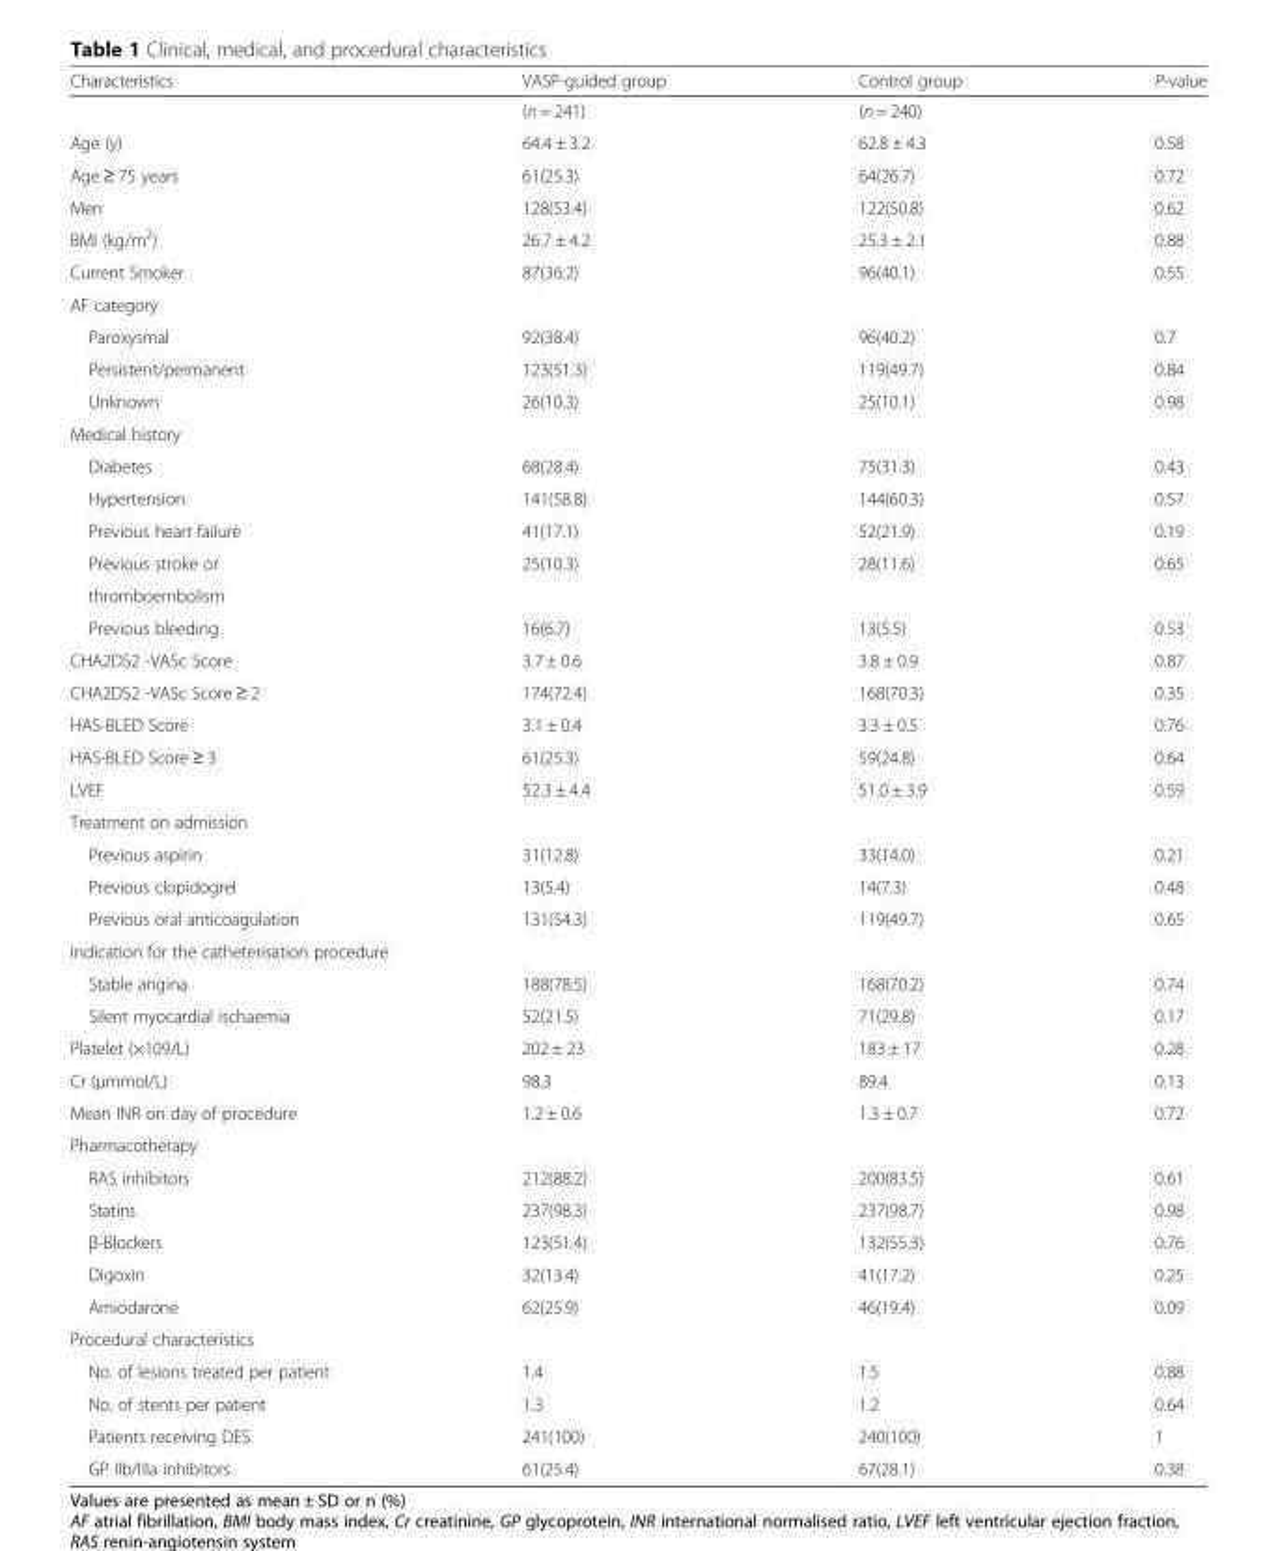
<table><thead><tr><td>Characteristics</td><td>VASP-guided group</td><td>Control group</td><td>P-value</td></tr></thead><tbody><tr><td></td><td>(n = 241)</td><td>(n = 240)</td><td></td></tr><tr><td>Age (y)</td><td>64.4 ± 3.2</td><td>62.8 ± 4.3</td><td>0.58</td></tr><tr><td>Age ≥ 75 years</td><td>61(25.3)</td><td>64(26.7)</td><td>0.72</td></tr><tr><td>Men</td><td>128(53.4)</td><td>122(50.8)</td><td>0.62</td></tr><tr><td>BMI (kg/m<sup>2</sup>)</td><td>26.7 ± 4.2</td><td>25.3 ± 2.1</td><td>0.88</td></tr><tr><td>Current Smoker</td><td>87(36.2)</td><td>96(40.1)</td><td>0.55</td></tr><tr><td colspan="4">AF category</td></tr><tr><td>Paroxysmal</td><td>92(38.4)</td><td>96(40.2)</td><td>0.7</td></tr><tr><td>Persistent/permanent</td><td>123(51.3)</td><td>119(49.7)</td><td>0.84</td></tr><tr><td>Unknown</td><td>26(10.3)</td><td>25(10.1)</td><td>0.98</td></tr><tr><td colspan="4">Medical history</td></tr><tr><td>Diabetes</td><td>68(28.4)</td><td>75(31.3)</td><td>0.43</td></tr><tr><td>Hypertension</td><td>141(58.8)</td><td>144(60.3)</td><td>0.57</td></tr><tr><td>Previous heart failure</td><td>41(17.1)</td><td>52(21.9)</td><td>0.19</td></tr><tr><td>Previous stroke or</td><td>25(10.3)</td><td>28(11.6)</td><td>0.65</td></tr><tr><td colspan="4">thromboembolism</td></tr><tr><td>Previous bleeding</td><td>16(6.7)</td><td>13(5.5)</td><td>0.53</td></tr><tr><td>CHA2DS2 -VASc Score</td><td>3.7 ± 0.6</td><td>3.8 ± 0.9</td><td>0.87</td></tr><tr><td>CHA2DS2 -VASc Score ≥ 2</td><td>174(72.4)</td><td>168(70.3)</td><td>0.35</td></tr><tr><td>HAS-BLED Score</td><td>3.1 ± 0.4</td><td>3.3 ± 0.5</td><td>0.76</td></tr><tr><td>HAS-BLED Score ≥ 3</td><td>61(25.3)</td><td>59(24.8)</td><td>0.64</td></tr><tr><td>LVEF</td><td>52.3 ± 4.4</td><td>51.0 ± 3.9</td><td>0.59</td></tr><tr><td colspan="4">Treatment on admission</td></tr><tr><td>Previous aspirin</td><td>31(12.8)</td><td>33(14.0)</td><td>0.21</td></tr><tr><td>Previous clopidogrel</td><td>13(5.4)</td><td>14(7.3)</td><td>0.48</td></tr><tr><td>Previous oral anticoagulation</td><td>131(54.3)</td><td>119(49.7)</td><td>0.65</td></tr><tr><td colspan="4">Indication for the catheterisation procedure</td></tr><tr><td>Stable angina</td><td>188(78.5)</td><td>168(70.2)</td><td>0.74</td></tr><tr><td>Silent myocardial ischaemia</td><td>52(21.5)</td><td>71(29.8)</td><td>0.17</td></tr><tr><td>Platelet (×109/L)</td><td>202 ± 23</td><td>183 ± 17</td><td>0.28</td></tr><tr><td>Cr (μmmol/L)</td><td>98.3</td><td>89.4</td><td>0.13</td></tr><tr><td>Mean INR on day of procedure</td><td>1.2 ± 0.6</td><td>1.3 ± 0.7</td><td>0.72</td></tr><tr><td colspan="4">Pharmacotherapy</td></tr><tr><td>RAS inhibitors</td><td>212(88.2)</td><td>200(83.5)</td><td>0.61</td></tr><tr><td>Statins</td><td>237(98.3)</td><td>237(98.7)</td><td>0.98</td></tr><tr><td>β-Blockers</td><td>123(51.4)</td><td>132(55.3)</td><td>0.76</td></tr><tr><td>Digoxin</td><td>32(13.4)</td><td>41(17.2)</td><td>0.25</td></tr><tr><td>Amiodarone</td><td>62(25.9)</td><td>46(19.4)</td><td>0.09</td></tr><tr><td colspan="4">Procedural characteristics</td></tr><tr><td>No. of lesions treated per patient</td><td>1.4</td><td>1.5</td><td>0.88</td></tr><tr><td>No. of stents per patient</td><td>1.3</td><td>1.2</td><td>0.64</td></tr><tr><td>Patients receiving DES</td><td>241(100)</td><td>240(100)</td><td>1</td></tr><tr><td>GP IIb/IIIa inhibitors</td><td>61(25.4)</td><td>67(28.1)</td><td>0.38</td></tr></tbody></table>